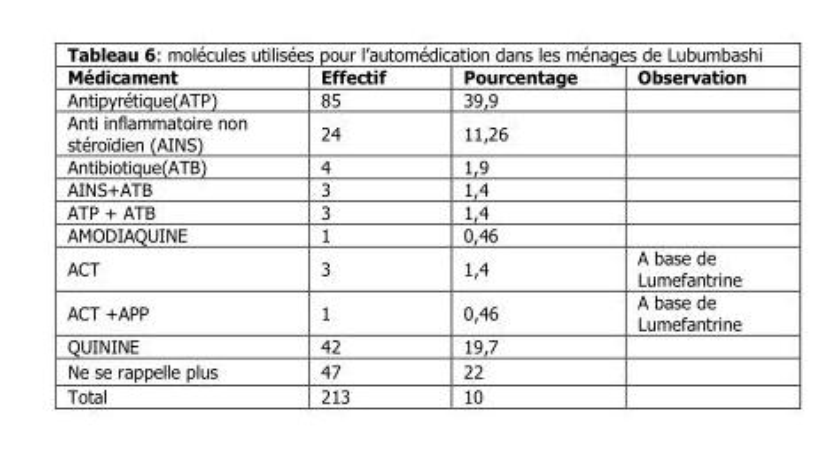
<table><thead><tr><td>Médicament</td><td>Effectif</td><td>Pourcentage</td><td>Observation</td></tr></thead><tbody><tr><td>Antipyrétique(ATP)</td><td>85</td><td>39,9</td><td></td></tr><tr><td>Anti inflammatoire non stéroïdien (AINS)</td><td>24</td><td>11,26</td><td></td></tr><tr><td>Antibiotique(ATB)</td><td>4</td><td>1,9</td><td></td></tr><tr><td>AINS+ATB</td><td>3</td><td>1,4</td><td></td></tr><tr><td>ATP + ATB</td><td>3</td><td>1,4</td><td></td></tr><tr><td>AMODIAQUINE</td><td>1</td><td>0,46</td><td></td></tr><tr><td>ACT</td><td>3</td><td>1,4</td><td>A base de Lumefantrine</td></tr><tr><td>ACT +APP</td><td>1</td><td>0,46</td><td>A base de Lumefantrine</td></tr><tr><td>QUININE</td><td>42</td><td>19,7</td><td></td></tr><tr><td>Ne se rappelle plus</td><td>47</td><td>22</td><td></td></tr><tr><td>Total</td><td>213</td><td>10</td><td></td></tr></tbody></table>